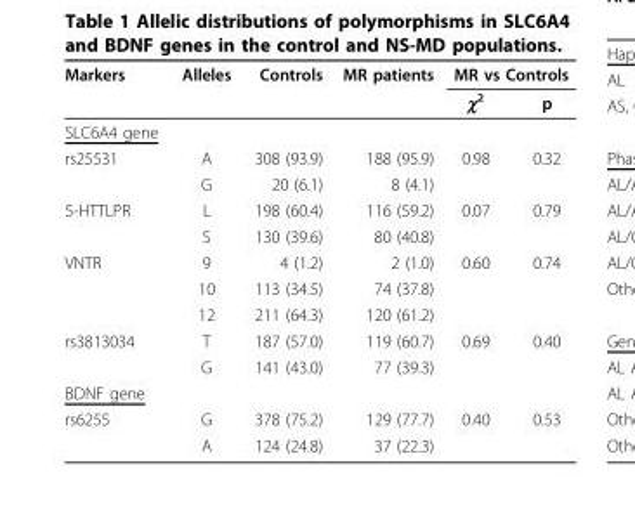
<table><thead><tr><td rowspan="2">Markers</td><td rowspan="2">Alleles</td><td rowspan="2">Controls</td><td rowspan="2">MR patients</td><td colspan="2">MR vs Controls</td></tr><tr><td>χ<sup>2</sup></td><td>p</td></tr></thead><tbody><tr><td colspan="6">SLC6A4 gene</td></tr><tr><td rowspan="2">rs25531</td><td>A</td><td>308 (93.9)</td><td>188 (95.9)</td><td>0.98</td><td>0.32</td></tr><tr><td>G</td><td>20 (6.1)</td><td>8 (4.1)</td><td></td><td></td></tr><tr><td rowspan="2">5-HTTLPR</td><td>L</td><td>198 (60.4)</td><td>116 (59.2)</td><td>0.07</td><td>0.79</td></tr><tr><td>S</td><td>130 (39.6)</td><td>80 (40.8)</td><td></td><td></td></tr><tr><td rowspan="3">VNTR</td><td>9</td><td>4 (1.2)</td><td>2 (1.0)</td><td>0.60</td><td>0.74</td></tr><tr><td>10</td><td>113 (34.5)</td><td>74 (37.8)</td><td></td><td></td></tr><tr><td>12</td><td>211 (64.3)</td><td>120 (61.2)</td><td></td><td></td></tr><tr><td rowspan="2">rs3813034</td><td>T</td><td>187 (57.0)</td><td>119 (60.7)</td><td>0.69</td><td>0.40</td></tr><tr><td>G</td><td>141 (43.0)</td><td>77 (39.3)</td><td></td><td></td></tr><tr><td colspan="6">BDNF gene</td></tr><tr><td rowspan="2">rs6255</td><td>G</td><td>378 (75.2)</td><td>129 (77.7)</td><td>0.40</td><td>0.53</td></tr><tr><td>A</td><td>124 (24.8)</td><td>37 (22.3)</td><td></td><td></td></tr></tbody></table>